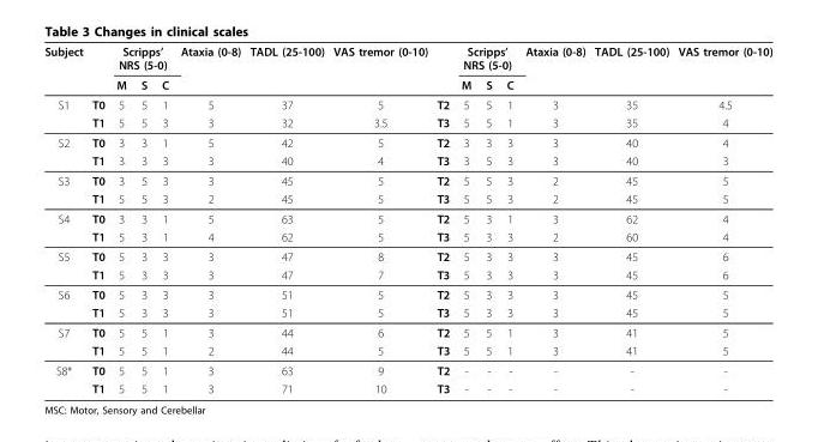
<table><thead><tr><td rowspan="2">Subject</td><td rowspan="2"></td><td colspan="3">Scripps’ NRS (5-0)</td><td rowspan="2">Ataxia (0-8)</td><td rowspan="2">TADL (25-100)</td><td rowspan="2">VAS tremor (0-10)</td><td rowspan="2"></td><td colspan="3">Scripps’ NRS (5-0)</td><td rowspan="2">Ataxia (0-8)</td><td rowspan="2">TADL (25-100)</td><td rowspan="2">VAS tremor (0-10)</td></tr><tr><td>M</td><td>S</td><td>C</td><td>M</td><td>S</td><td>C</td></tr></thead><tbody><tr><td rowspan="2">S1</td><td>T0</td><td>5</td><td>5</td><td>1</td><td>5</td><td>37</td><td>5</td><td>T2</td><td>5</td><td>5</td><td>1</td><td>3</td><td>35</td><td>4.5</td></tr><tr><td>T1</td><td>5</td><td>5</td><td>3</td><td>3</td><td>32</td><td>3.5</td><td>T3</td><td>5</td><td>5</td><td>1</td><td>3</td><td>35</td><td>4</td></tr><tr><td rowspan="2">S2</td><td>T0</td><td>3</td><td>3</td><td>1</td><td>5</td><td>42</td><td>5</td><td>T2</td><td>3</td><td>3</td><td>3</td><td>3</td><td>40</td><td>4</td></tr><tr><td>T1</td><td>3</td><td>3</td><td>3</td><td>3</td><td>40</td><td>4</td><td>T3</td><td>3</td><td>5</td><td>3</td><td>3</td><td>40</td><td>3</td></tr><tr><td rowspan="2">S3</td><td>T0</td><td>3</td><td>5</td><td>3</td><td>3</td><td>45</td><td>5</td><td>T2</td><td>5</td><td>5</td><td>3</td><td>2</td><td>45</td><td>5</td></tr><tr><td>T1</td><td>5</td><td>5</td><td>3</td><td>2</td><td>45</td><td>5</td><td>T3</td><td>5</td><td>5</td><td>3</td><td>2</td><td>45</td><td>5</td></tr><tr><td rowspan="2">S4</td><td>T0</td><td>3</td><td>3</td><td>1</td><td>5</td><td>63</td><td>5</td><td>T2</td><td>5</td><td>3</td><td>1</td><td>3</td><td>62</td><td>4</td></tr><tr><td>T1</td><td>5</td><td>3</td><td>1</td><td>4</td><td>62</td><td>5</td><td>T3</td><td>5</td><td>3</td><td>3</td><td>2</td><td>60</td><td>4</td></tr><tr><td rowspan="2">S5</td><td>T0</td><td>5</td><td>3</td><td>3</td><td>3</td><td>47</td><td>8</td><td>T2</td><td>5</td><td>3</td><td>3</td><td>3</td><td>45</td><td>6</td></tr><tr><td>T1</td><td>5</td><td>3</td><td>3</td><td>3</td><td>47</td><td>7</td><td>T3</td><td>5</td><td>3</td><td>3</td><td>3</td><td>45</td><td>6</td></tr><tr><td rowspan="2">S6</td><td>T0</td><td>5</td><td>3</td><td>3</td><td>3</td><td>51</td><td>5</td><td>T2</td><td>5</td><td>3</td><td>3</td><td>3</td><td>45</td><td>5</td></tr><tr><td>T1</td><td>5</td><td>3</td><td>3</td><td>3</td><td>51</td><td>5</td><td>T3</td><td>5</td><td>3</td><td>3</td><td>3</td><td>45</td><td>5</td></tr><tr><td rowspan="2">S7</td><td>T0</td><td>5</td><td>5</td><td>1</td><td>3</td><td>44</td><td>6</td><td>T2</td><td>5</td><td>5</td><td>1</td><td>3</td><td>41</td><td>5</td></tr><tr><td>T1</td><td>5</td><td>5</td><td>1</td><td>2</td><td>44</td><td>5</td><td>T3</td><td>5</td><td>5</td><td>1</td><td>3</td><td>41</td><td>5</td></tr><tr><td rowspan="2">S8*</td><td>T0</td><td>5</td><td>5</td><td>1</td><td>3</td><td>63</td><td>9</td><td>T2</td><td>-</td><td>-</td><td>-</td><td>-</td><td>-</td><td>-</td></tr><tr><td>T1</td><td>5</td><td>5</td><td>1</td><td>3</td><td>71</td><td>10</td><td>T3</td><td>-</td><td>-</td><td>-</td><td>-</td><td>-</td><td>-</td></tr></tbody></table>